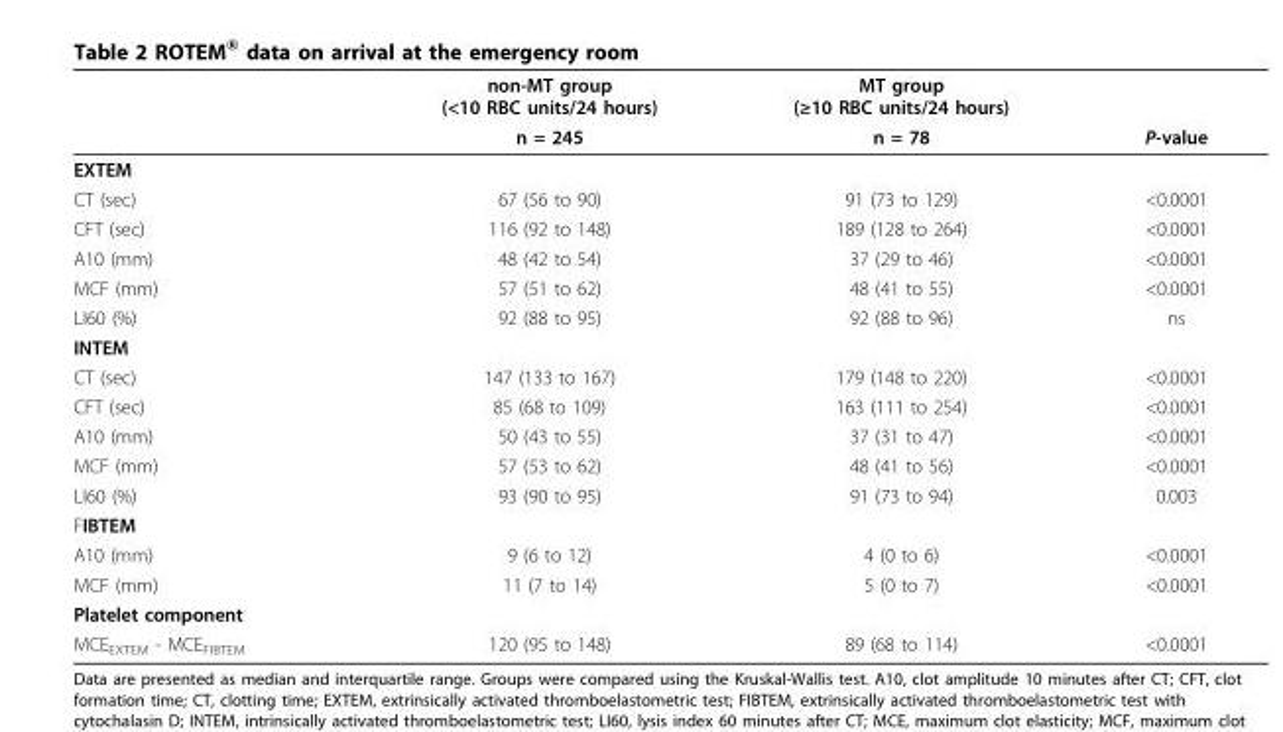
<table><thead><tr><td rowspan="2"></td><td rowspan="2">non-MT group (&lt;10 RBC units/24 hours) n = 245</td><td rowspan="2">MT group (≥10 RBC units/24 hours) n = 78</td><td rowspan="2">P-value</td></tr><tr></tr></thead><tbody><tr><td colspan="4">EXTEM</td></tr><tr><td>CT (sec)</td><td>67 (56 to 90)</td><td>91 (73 to 129)</td><td>&lt;0.0001</td></tr><tr><td>CFT (sec)</td><td>116 (92 to 148)</td><td>189 (128 to 264)</td><td>&lt;0.0001</td></tr><tr><td>A10 (mm)</td><td>48 (42 to 54)</td><td>37 (29 to 46)</td><td>&lt;0.0001</td></tr><tr><td>MCF (mm)</td><td>57 (51 to 62)</td><td>48 (41 to 55)</td><td>&lt;0.0001</td></tr><tr><td>LI60 (%)</td><td>92 (88 to 95)</td><td>92 (88 to 96)</td><td>ns</td></tr><tr><td colspan="4">INTEM</td></tr><tr><td>CT (sec)</td><td>147 (133 to 167)</td><td>179 (148 to 220)</td><td>&lt;0.0001</td></tr><tr><td>CFT (sec)</td><td>85 (68 to 109)</td><td>163 (111 to 254)</td><td>&lt;0.0001</td></tr><tr><td>A10 (mm)</td><td>50 (43 to 55)</td><td>37 (31 to 47)</td><td>&lt;0.0001</td></tr><tr><td>MCF (mm)</td><td>57 (53 to 62)</td><td>48 (41 to 56)</td><td>&lt;0.0001</td></tr><tr><td>LI60 (%)</td><td>93 (90 to 95)</td><td>91 (73 to 94)</td><td>0.003</td></tr><tr><td colspan="4">FIBTEM</td></tr><tr><td>A10 (mm)</td><td>9 (6 to 12)</td><td>4 (0 to 6)</td><td>&lt;0.0001</td></tr><tr><td>MCF (mm)</td><td>11 (7 to 14)</td><td>5 (0 to 7)</td><td>&lt;0.0001</td></tr><tr><td colspan="4">Platelet component</td></tr><tr><td>MCE<sub>EXTEM</sub> - MCE<sub>FIBTEM</sub></td><td>120 (95 to 148)</td><td>89 (68 to 114)</td><td>&lt;0.0001</td></tr></tbody></table>